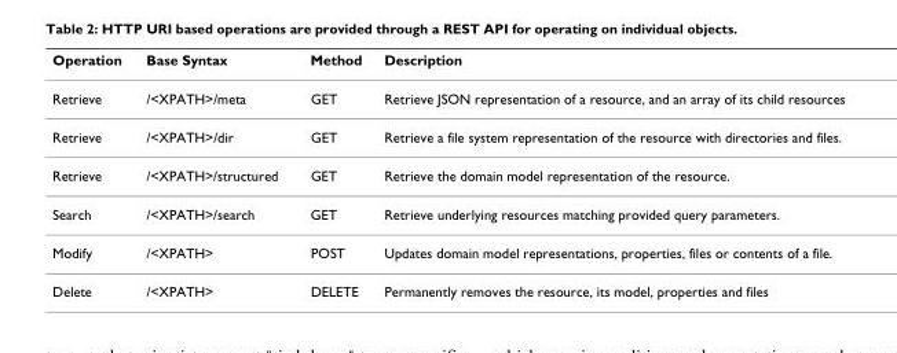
<table><thead><tr><td>Operation</td><td>Base Syntax</td><td>Method</td><td>Description</td></tr></thead><tbody><tr><td>Retrieve</td><td>/&lt;XPATH&gt;/meta</td><td>GET</td><td>Retrieve JSON representation of a resource, and an array of its child resources</td></tr><tr><td>Retrieve</td><td>/&lt;XPATH&gt;/dir</td><td>GET</td><td>Retrieve a file system representation of the resource with directories and files.</td></tr><tr><td>Retrieve</td><td>/&lt;XPATH&gt;/structured</td><td>GET</td><td>Retrieve the domain model representation of the resource.</td></tr><tr><td>Search</td><td>/&lt;XPATH&gt;/search</td><td>GET</td><td>Retrieve underlying resources matching provided query parameters.</td></tr><tr><td>Modify</td><td>/&lt;XPATH&gt;</td><td>POST</td><td>Updates domain model representations, properties, files or contents of a file.</td></tr><tr><td>Delete</td><td>/&lt;XPATH&gt;</td><td>DELETE</td><td>Permanently removes the resource, its model, properties and files</td></tr></tbody></table>